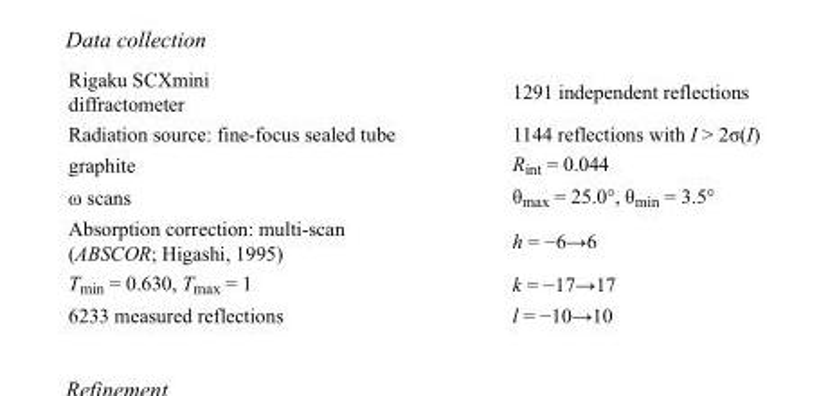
<table><tbody><tr><td>Rigaku SCXmini diffractometer</td><td>1291 independent reflections</td></tr><tr><td>Radiation source: fine-focus sealed tube</td><td>1144 reflections with I &gt; 2σ(I)</td></tr><tr><td>graphite</td><td>R<sub>int</sub> = 0.044</td></tr><tr><td>ω scans</td><td>θ<sub>max</sub> = 25.0°, θ<sub>min</sub> = 3.5°</td></tr><tr><td>Absorption correction: multi-scan (ABSCOR; Higashi, 1995)</td><td>h = −6→6</td></tr><tr><td>T<sub>min</sub> = 0.630, T<sub>max</sub> = 1</td><td>k = −17→17</td></tr><tr><td>6233 measured reflections</td><td>l = −10→10</td></tr></tbody></table>